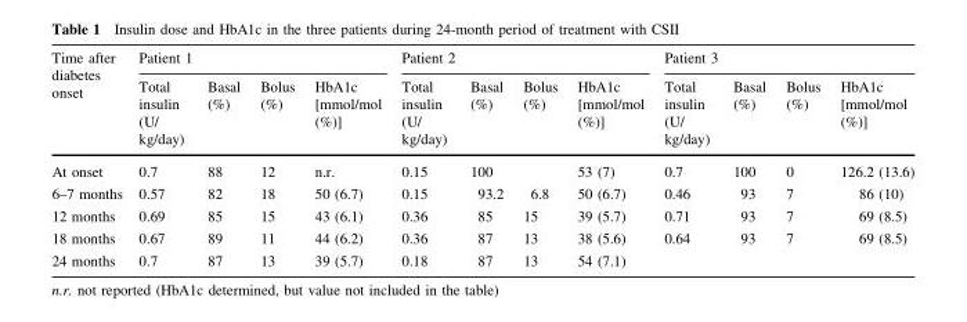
<table><thead><tr><td rowspan="2">Time after diabetes onset</td><td colspan="4">Patient 1</td><td colspan="4">Patient 2</td><td colspan="4">Patient 3</td></tr><tr><td>Total insulin (U/ kg/day)</td><td>Basal (%)</td><td>Bolus (%)</td><td>HbA1c [mmol/mol (%)]</td><td>Total insulin (U/ kg/day)</td><td>Basal (%)</td><td>Bolus (%)</td><td>HbA1c [mmol/mol (%)]</td><td>Total insulin (U/ kg/day)</td><td>Basal (%)</td><td>Bolus (%)</td><td>HbA1c [mmol/mol (%)]</td></tr></thead><tbody><tr><td>At onset</td><td>0.7</td><td>88</td><td>12</td><td>n.r.</td><td>0.15</td><td>100</td><td></td><td>53 (7)</td><td>0.7</td><td>100</td><td>0</td><td>126.2 (13.6)</td></tr><tr><td>6–7 months</td><td>0.57</td><td>82</td><td>18</td><td>50 (6.7)</td><td>0.15</td><td>93.2</td><td>6.8</td><td>50 (6.7)</td><td>0.46</td><td>93</td><td>7</td><td>86 (10)</td></tr><tr><td>12 months</td><td>0.69</td><td>85</td><td>15</td><td>43 (6.1)</td><td>0.36</td><td>85</td><td>15</td><td>39 (5.7)</td><td>0.71</td><td>93</td><td>7</td><td>69 (8.5)</td></tr><tr><td>18 months</td><td>0.67</td><td>89</td><td>11</td><td>44 (6.2)</td><td>0.36</td><td>87</td><td>13</td><td>38 (5.6)</td><td>0.64</td><td>93</td><td>7</td><td>69 (8.5)</td></tr><tr><td>24 months</td><td>0.7</td><td>87</td><td>13</td><td>39 (5.7)</td><td>0.18</td><td>87</td><td>13</td><td>54 (7.1)</td><td></td><td></td><td></td><td></td></tr></tbody></table>